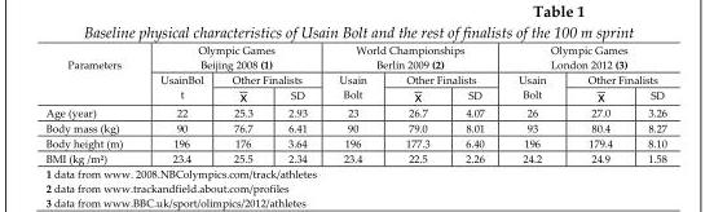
<table><thead><tr><td rowspan="3">Parameters</td><td colspan="3">Olympic Games Beijing 2008 (1)</td><td colspan="3">World Championships Berlin 2009 (2)</td><td colspan="3">Olympic Games London 2012 (3)</td></tr><tr><td rowspan="2">UsainBol t</td><td colspan="2">Other Finalists</td><td rowspan="2">Usain Bolt</td><td colspan="2">Other Finalists</td><td rowspan="2">Usain Bolt</td><td colspan="2">Other Finalists</td></tr><tr><td>x</td><td>SD</td><td>x</td><td>SD</td><td>x</td><td>SD</td></tr></thead><tbody><tr><td>Age (year)</td><td>22</td><td>25.3</td><td>2.93</td><td>23</td><td>26.7</td><td>4.07</td><td>26</td><td>27.0</td><td>3.26</td></tr><tr><td>Body mass (kg)</td><td>90</td><td>76.7</td><td>6.41</td><td>90</td><td>79.0</td><td>8.01</td><td>93</td><td>80.4</td><td>8.27</td></tr><tr><td>Body height (m)</td><td>196</td><td>176</td><td>3.64</td><td>196</td><td>177.3</td><td>6.40</td><td>196</td><td>179.4</td><td>8.10</td></tr><tr><td>BMI (kg /m²)</td><td>23.4</td><td>25.5</td><td>2.34</td><td>23.4</td><td>22.5</td><td>2.26</td><td>24.2</td><td>24.9</td><td>1.58</td></tr></tbody></table>